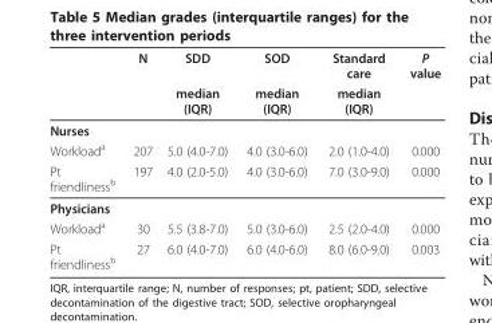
<table><thead><tr><td rowspan="2"></td><td rowspan="2">N</td><td rowspan="2">SDD median (IQR)</td><td rowspan="2">SOD median (IQR)</td><td rowspan="2">Standard care median (IQR)</td><td rowspan="2">P value</td></tr><tr></tr></thead><tbody><tr><td colspan="6">Nurses</td></tr><tr><td>Workload<sup>a</sup></td><td>207</td><td>5.0 (4.0-7.0)</td><td>4.0 (3.0-6.0)</td><td>2.0 (1.0-4.0)</td><td>0.000</td></tr><tr><td>Pt friendliness<sup>b</sup></td><td>197</td><td>4.0 (2.0-5.0)</td><td>4.0 (3.0-6.0)</td><td>7.0 (3.0-9.0)</td><td>0.000</td></tr><tr><td colspan="6">Physicians</td></tr><tr><td>Workload<sup>a</sup></td><td>30</td><td>5.5 (3.8-7.0)</td><td>5.0 (3.0-6.0)</td><td>2.5 (2.0-4.0)</td><td>0.000</td></tr><tr><td>Pt friendliness<sup>b</sup></td><td>27</td><td>6.0 (4.0-7.0)</td><td>6.0 (4.0-6.0)</td><td>8.0 (6.0-9.0)</td><td>0.003</td></tr></tbody></table>